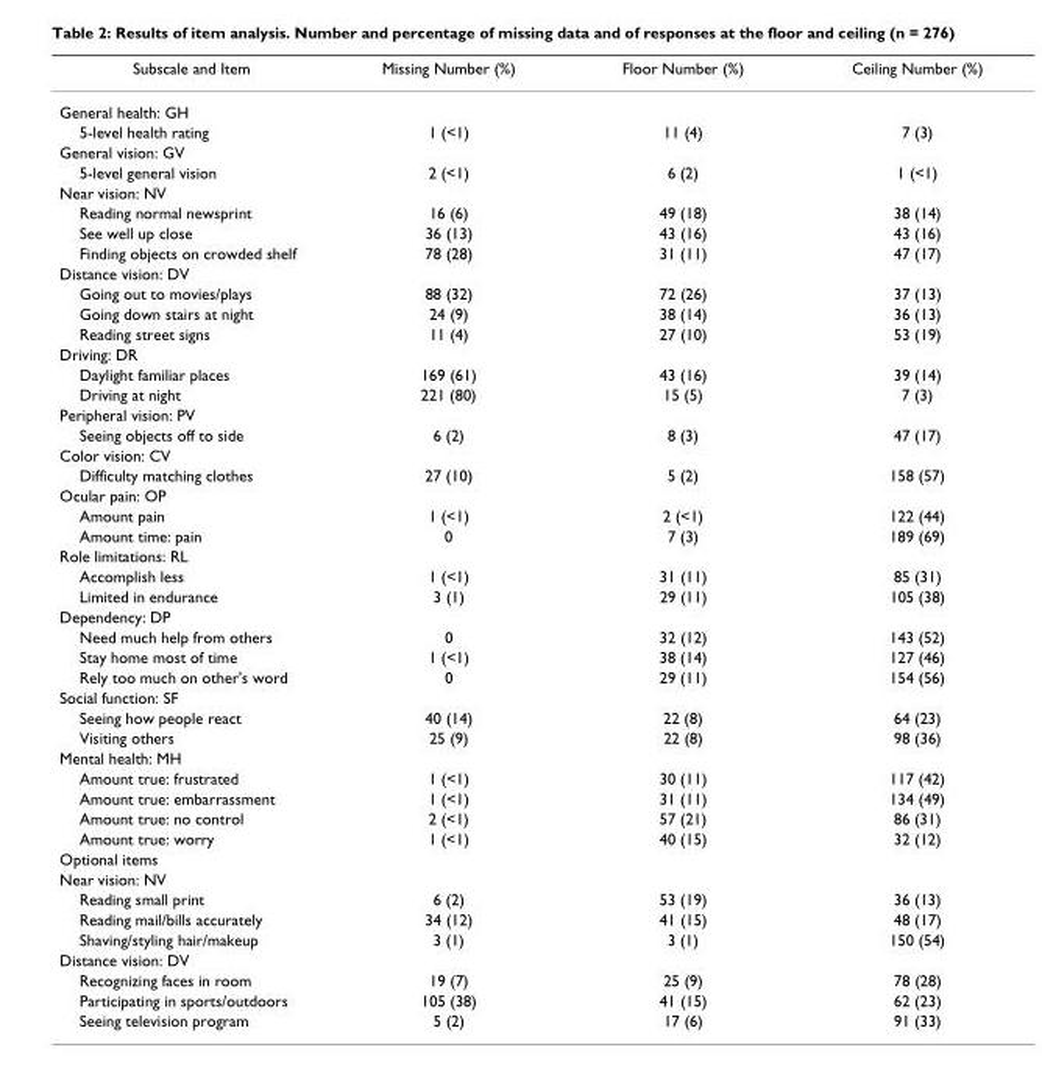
<table><thead><tr><td>Subscale and Item</td><td>Missing Number (%)</td><td>Floor Number (%)</td><td>Ceiling Number (%)</td></tr></thead><tbody><tr><td colspan="4">General health: GH</td></tr><tr><td>5-level health rating</td><td>1 (&lt;1)</td><td>11 (4)</td><td>7 (3)</td></tr><tr><td colspan="4">General vision: GV</td></tr><tr><td>5-level general vision</td><td>2 (&lt;1)</td><td>6 (2)</td><td>1 (&lt;1)</td></tr><tr><td colspan="4">Near vision: NV</td></tr><tr><td>Reading normal newsprint</td><td>16 (6)</td><td>49 (18)</td><td>38 (14)</td></tr><tr><td>See well up close</td><td>36 (13)</td><td>43 (16)</td><td>43 (16)</td></tr><tr><td>Finding objects on crowded shelf</td><td>78 (28)</td><td>31 (11)</td><td>47 (17)</td></tr><tr><td colspan="4">Distance vision: DV</td></tr><tr><td>Going out to movies/plays</td><td>88 (32)</td><td>72 (26)</td><td>37 (13)</td></tr><tr><td>Going down stairs at night</td><td>24 (9)</td><td>38 (14)</td><td>36 (13)</td></tr><tr><td>Reading street signs</td><td>11 (4)</td><td>27 (10)</td><td>53 (19)</td></tr><tr><td colspan="4">Driving: DR</td></tr><tr><td>Daylight familiar places</td><td>169 (61)</td><td>43 (16)</td><td>39 (14)</td></tr><tr><td>Driving at night</td><td>221 (80)</td><td>15 (5)</td><td>7 (3)</td></tr><tr><td colspan="4">Peripheral vision: PV</td></tr><tr><td>Seeing objects off to side</td><td>6 (2)</td><td>8 (3)</td><td>47 (17)</td></tr><tr><td colspan="4">Color vision: CV</td></tr><tr><td>Difficulty matching clothes</td><td>27 (10)</td><td>5 (2)</td><td>158 (57)</td></tr><tr><td colspan="4">Ocular pain: OP</td></tr><tr><td>Amount pain</td><td>1 (&lt;1)</td><td>2 (&lt;1)</td><td>122 (44)</td></tr><tr><td>Amount time: pain</td><td>0</td><td>7 (3)</td><td>189 (69)</td></tr><tr><td colspan="4">Role limitations: RL</td></tr><tr><td>Accomplish less</td><td>1 (&lt;1)</td><td>31 (11)</td><td>85 (31)</td></tr><tr><td>Limited in endurance</td><td>3 (1)</td><td>29 (11)</td><td>105 (38)</td></tr><tr><td colspan="4">Dependency: DP</td></tr><tr><td>Need much help from others</td><td>0</td><td>32 (12)</td><td>143 (52)</td></tr><tr><td>Stay home most of time</td><td>1 (&lt;1)</td><td>38 (14)</td><td>127 (46)</td></tr><tr><td>Rely too much on other&#x27;s word</td><td>0</td><td>29 (11)</td><td>154 (56)</td></tr><tr><td colspan="4">Social function: SF</td></tr><tr><td>Seeing how people react</td><td>40 (14)</td><td>22 (8)</td><td>64 (23)</td></tr><tr><td>Visiting others</td><td>25 (9)</td><td>22 (8)</td><td>98 (36)</td></tr><tr><td colspan="4">Mental health: MH</td></tr><tr><td>Amount true: frustrated</td><td>1 (&lt;1)</td><td>30 (11)</td><td>117 (42)</td></tr><tr><td>Amount true: embarrassment</td><td>1 (&lt;1)</td><td>31 (11)</td><td>134 (49)</td></tr><tr><td>Amount true: no control</td><td>2 (&lt;1)</td><td>57 (21)</td><td>86 (31)</td></tr><tr><td>Amount true: worry</td><td>1 (&lt;1)</td><td>40 (15)</td><td>32 (12)</td></tr><tr><td colspan="4">Optional items</td></tr><tr><td colspan="4">Near vision: NV</td></tr><tr><td>Reading small print</td><td>6 (2)</td><td>53 (19)</td><td>36 (13)</td></tr><tr><td>Reading mail/bills accurately</td><td>34 (12)</td><td>41 (15)</td><td>48 (17)</td></tr><tr><td>Shaving/styling hair/makeup</td><td>3 (1)</td><td>3 (1)</td><td>150 (54)</td></tr><tr><td colspan="4">Distance vision: DV</td></tr><tr><td>Recognizing faces in room</td><td>19 (7)</td><td>25 (9)</td><td>78 (28)</td></tr><tr><td>Participating in sports/outdoors</td><td>105 (38)</td><td>41 (15)</td><td>62 (23)</td></tr><tr><td>Seeing television program</td><td>5 (2)</td><td>17 (6)</td><td>91 (33)</td></tr></tbody></table>